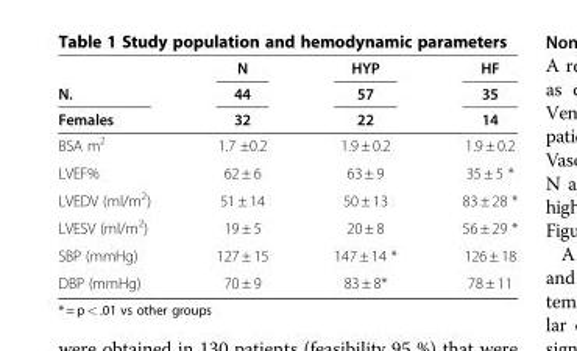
<table><thead><tr><td rowspan="3">N. Females</td><td rowspan="3">N 44 32</td><td rowspan="3">HYP 57 22</td><td rowspan="3">HF 35 14</td></tr><tr></tr><tr></tr></thead><tbody><tr><td>BSA m<sup>2</sup></td><td>1.7 ±0.2</td><td>1.9 ± 0.2</td><td>1.9 ± 0.2</td></tr><tr><td>LVEF%</td><td>62 ± 6</td><td>63 ± 9</td><td>35 ± 5 *</td></tr><tr><td>LVEDV (ml/m<sup>2</sup>)</td><td>51 ± 14</td><td>50 ± 13</td><td>83 ± 28 *</td></tr><tr><td>LVESV (ml/m<sup>2</sup>)</td><td>19 ± 5</td><td>20 ± 8</td><td>56 ± 29 *</td></tr><tr><td>SBP (mmHg)</td><td>127 ± 15</td><td>147 ± 14 *</td><td>126 ± 18</td></tr><tr><td>DBP (mmHg)</td><td>70 ± 9</td><td>83 ± 8*</td><td>78 ± 11</td></tr></tbody></table>